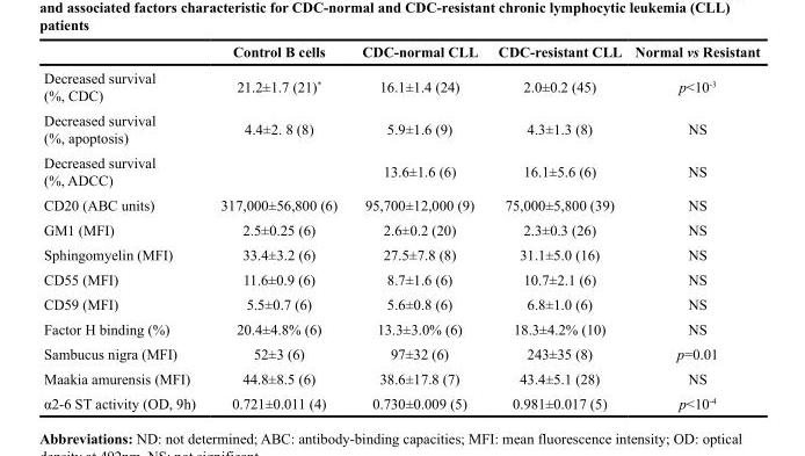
<table><thead><tr><td></td><td>Control B cells</td><td>CDC-normal CLL</td><td>CDC-resistant CLL</td><td>Normal vs Resistant</td></tr></thead><tbody><tr><td>Decreased survival (%, CDC)</td><td>21.2±1.7 (21)*</td><td>16.1±1.4 (24)</td><td>2.0±0.2 (45)</td><td>p&lt;10<sup>-3</sup></td></tr><tr><td>Decreased survival (%, apoptosis)</td><td>4.4±2. 8 (8)</td><td>5.9±1.6 (9)</td><td>4.3±1.3 (8)</td><td>NS</td></tr><tr><td>Decreased survival (%, ADCC)</td><td></td><td>13.6±1.6 (6)</td><td>16.1±5.6 (6)</td><td>NS</td></tr><tr><td>CD20 (ABC units)</td><td>317,000±56,800 (6)</td><td>95,700±12,000 (9)</td><td>75,000±5,800 (39)</td><td>NS</td></tr><tr><td>GM1 (MFI)</td><td>2.5±0.25 (6)</td><td>2.6±0.2 (20)</td><td>2.3±0.3 (26)</td><td>NS</td></tr><tr><td>Sphingomyelin (MFI)</td><td>33.4±3.2 (6)</td><td>27.5±7.8 (8)</td><td>31.1±5.0 (16)</td><td>NS</td></tr><tr><td>CD55 (MFI)</td><td>11.6±0.9 (6)</td><td>8.7±1.6 (6)</td><td>10.7±2.1 (6)</td><td>NS</td></tr><tr><td>CD59 (MFI)</td><td>5.5±0.7 (6)</td><td>5.6±0.8 (6)</td><td>6.8±1.0 (6)</td><td>NS</td></tr><tr><td>Factor H binding (%)</td><td>20.4±4.8% (6)</td><td>13.3±3.0% (6)</td><td>18.3±4.2% (10)</td><td>NS</td></tr><tr><td>Sambucus nigra (MFI)</td><td>52±3 (6)</td><td>97±32 (6)</td><td>243±35 (8)</td><td>p=0.01</td></tr><tr><td>Maakia amurensis (MFI)</td><td>44.8±8.5 (6)</td><td>38.6±17.8 (7)</td><td>43.4±5.1 (28)</td><td>NS</td></tr><tr><td>α2-6 ST activity (OD, 9h)</td><td>0.721±0.011 (4)</td><td>0.730±0.009 (5)</td><td>0.981±0.017 (5)</td><td>p&lt;10<sup>-4</sup></td></tr></tbody></table>